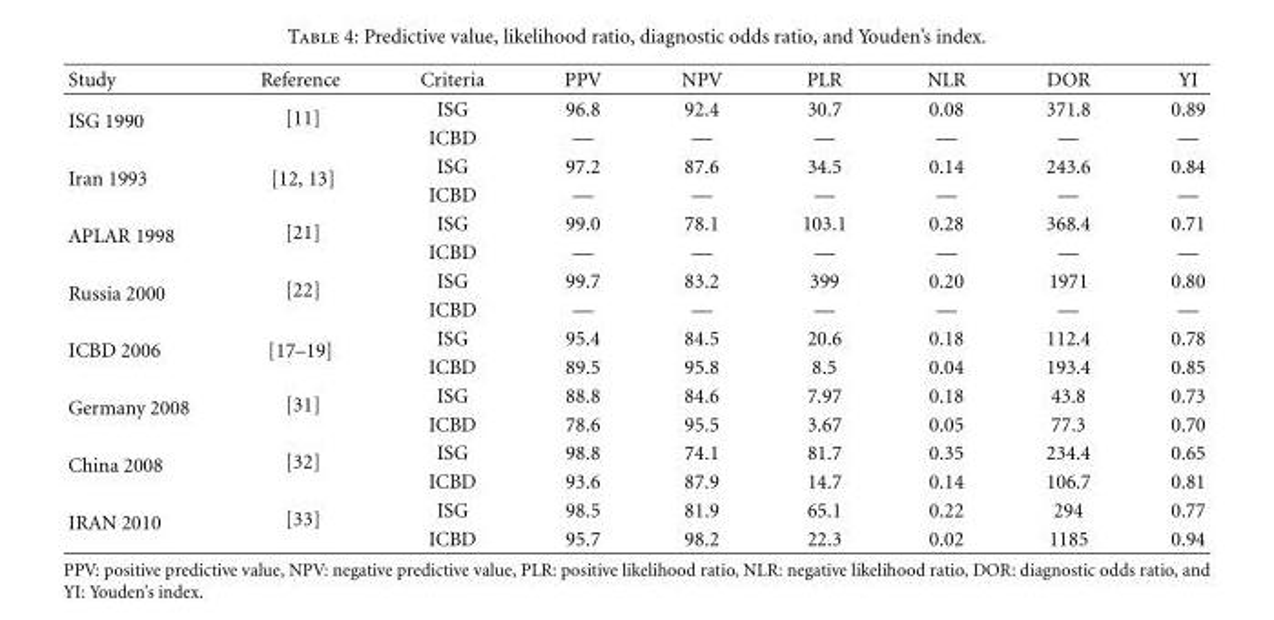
<table><thead><tr><td>Study</td><td>Reference</td><td>Criteria</td><td>PPV</td><td>NPV</td><td>PLR</td><td>NLR</td><td>DOR</td><td>YI</td></tr></thead><tbody><tr><td rowspan="2">ISG 1990</td><td rowspan="2">[11]</td><td>ISG</td><td>96.8</td><td>92.4</td><td>30.7</td><td>0.08</td><td>371.8</td><td>0.89</td></tr><tr><td>ICBD</td><td>—</td><td>—</td><td>—</td><td>—</td><td>—</td><td>—</td></tr><tr><td rowspan="2">Iran 1993</td><td rowspan="2">[12, 13]</td><td>ISG</td><td>97.2</td><td>87.6</td><td>34.5</td><td>0.14</td><td>243.6</td><td>0.84</td></tr><tr><td>ICBD</td><td>—</td><td>—</td><td>—</td><td>—</td><td>—</td><td>—</td></tr><tr><td rowspan="2">APLAR 1998</td><td rowspan="2">[21]</td><td>ISG</td><td>99.0</td><td>78.1</td><td>103.1</td><td>0.28</td><td>368.4</td><td>0.71</td></tr><tr><td>ICBD</td><td>—</td><td>—</td><td>—</td><td>—</td><td>—</td><td>—</td></tr><tr><td rowspan="2">Russia 2000</td><td rowspan="2">[22]</td><td>ISG</td><td>99.7</td><td>83.2</td><td>399</td><td>0.20</td><td>1971</td><td>0.80</td></tr><tr><td>ICBD</td><td>—</td><td>—</td><td>—</td><td>—</td><td>—</td><td>—</td></tr><tr><td rowspan="2">ICBD 2006</td><td rowspan="2">[17–19]</td><td>ISG</td><td>95.4</td><td>84.5</td><td>20.6</td><td>0.18</td><td>112.4</td><td>0.78</td></tr><tr><td>ICBD</td><td>89.5</td><td>95.8</td><td>8.5</td><td>0.04</td><td>193.4</td><td>0.85</td></tr><tr><td rowspan="2">Germany 2008</td><td rowspan="2">[31]</td><td>ISG</td><td>88.8</td><td>84.6</td><td>7.97</td><td>0.18</td><td>43.8</td><td>0.73</td></tr><tr><td>ICBD</td><td>78.6</td><td>95.5</td><td>3.67</td><td>0.05</td><td>77.3</td><td>0.70</td></tr><tr><td rowspan="2">China 2008</td><td rowspan="2">[32]</td><td>ISG</td><td>98.8</td><td>74.1</td><td>81.7</td><td>0.35</td><td>234.4</td><td>0.65</td></tr><tr><td>ICBD</td><td>93.6</td><td>87.9</td><td>14.7</td><td>0.14</td><td>106.7</td><td>0.81</td></tr><tr><td rowspan="2">IRAN 2010</td><td rowspan="2">[33]</td><td>ISG</td><td>98.5</td><td>81.9</td><td>65.1</td><td>0.22</td><td>294</td><td>0.77</td></tr><tr><td>ICBD</td><td>95.7</td><td>98.2</td><td>22.3</td><td>0.02</td><td>1185</td><td>0.94</td></tr></tbody></table>